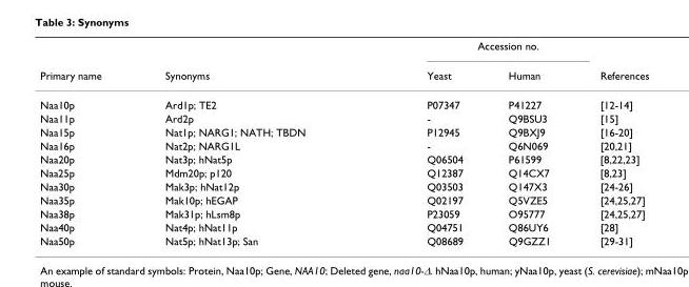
<table><thead><tr><td rowspan="2">Primary name</td><td rowspan="2">Synonyms</td><td colspan="2">Accession no.</td><td rowspan="2">References</td></tr><tr><td>Yeast</td><td>Human</td></tr></thead><tbody><tr><td>Naa10p</td><td>Ard1p; TE2</td><td>P07347</td><td>P41227</td><td>[12-14]</td></tr><tr><td>Naa11p</td><td>Ard2p</td><td>-</td><td>Q9BSU3</td><td>[15]</td></tr><tr><td>Naa15p</td><td>Nat1p; NARG1; NATH; TBDN</td><td>P12945</td><td>Q9BXJ9</td><td>[16-20]</td></tr><tr><td>Naa16p</td><td>Nat2p; NARG1L</td><td>-</td><td>Q6N069</td><td>[20,21]</td></tr><tr><td>Naa20p</td><td>Nat3p; hNat5p</td><td>Q06504</td><td>P61599</td><td>[8,22,23]</td></tr><tr><td>Naa25p</td><td>Mdm20p; p120</td><td>Q12387</td><td>Q14CX7</td><td>[8,23]</td></tr><tr><td>Naa30p</td><td>Mak3p; hNat12p</td><td>Q03503</td><td>Q147X3</td><td>[24-26]</td></tr><tr><td>Naa35p</td><td>Mak10p; hEGAP</td><td>Q02197</td><td>Q5VZE5</td><td>[24,25,27]</td></tr><tr><td>Naa38p</td><td>Mak31p; hLsm8p</td><td>P23059</td><td>O95777</td><td>[24,25,27]</td></tr><tr><td>Naa40p</td><td>Nat4p; hNat11p</td><td>Q04751</td><td>Q86UY6</td><td>[28]</td></tr><tr><td>Naa50p</td><td>Nat5p; hNat13p; San</td><td>Q08689</td><td>Q9GZZ1</td><td>[29-31]</td></tr></tbody></table>